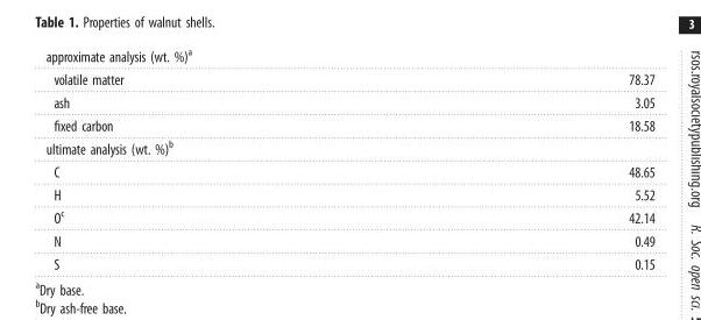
<table><tbody><tr><td colspan="2">approximate analysis (wt. %)<sup>a</sup></td></tr><tr><td>volatile matter</td><td>78.37</td></tr><tr><td>ash</td><td>3.05</td></tr><tr><td>fixed carbon</td><td>18.58</td></tr><tr><td colspan="2">ultimate analysis (wt. %)<sup>b</sup></td></tr><tr><td>C</td><td>48.65</td></tr><tr><td>H</td><td>5.52</td></tr><tr><td>O<sup>c</sup></td><td>42.14</td></tr><tr><td>N</td><td>0.49</td></tr><tr><td>S</td><td>0.15</td></tr></tbody></table>